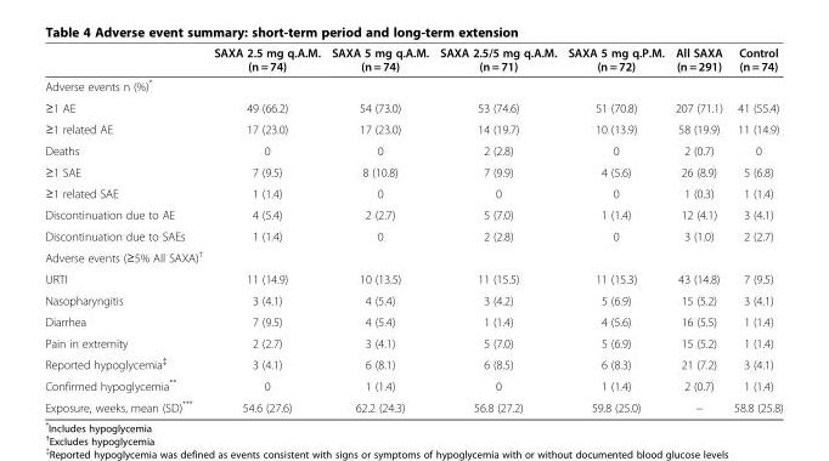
<table><thead><tr><td></td><td>SAXA 2.5 mg q.A.M. (n = 74)</td><td>SAXA 5 mg q.A.M. (n = 74)</td><td>SAXA 2.5/5 mg q.A.M. (n = 71)</td><td>SAXA 5 mg q.P.M. (n = 72)</td><td>All SAXA (n = 291)</td><td>Control (n = 74)</td></tr></thead><tbody><tr><td colspan="7">Adverse events n (%)*</td></tr><tr><td>≥1 AE</td><td>49 (66.2)</td><td>54 (73.0)</td><td>53 (74.6)</td><td>51 (70.8)</td><td>207 (71.1)</td><td>41 (55.4)</td></tr><tr><td>≥1 related AE</td><td>17 (23.0)</td><td>17 (23.0)</td><td>14 (19.7)</td><td>10 (13.9)</td><td>58 (19.9)</td><td>11 (14.9)</td></tr><tr><td>Deaths</td><td>0</td><td>0</td><td>2 (2.8)</td><td>0</td><td>2 (0.7)</td><td>0</td></tr><tr><td>≥1 SAE</td><td>7 (9.5)</td><td>8 (10.8)</td><td>7 (9.9)</td><td>4 (5.6)</td><td>26 (8.9)</td><td>5 (6.8)</td></tr><tr><td>≥1 related SAE</td><td>1 (1.4)</td><td>0</td><td>0</td><td>0</td><td>1 (0.3)</td><td>1 (1.4)</td></tr><tr><td>Discontinuation due to AE</td><td>4 (5.4)</td><td>2 (2.7)</td><td>5 (7.0)</td><td>1 (1.4)</td><td>12 (4.1)</td><td>3 (4.1)</td></tr><tr><td>Discontinuation due to SAEs</td><td>1 (1.4)</td><td>0</td><td>2 (2.8)</td><td>0</td><td>3 (1.0)</td><td>2 (2.7)</td></tr><tr><td colspan="7">Adverse events (≥5% All SAXA)<sup>†</sup></td></tr><tr><td>URTI</td><td>11 (14.9)</td><td>10 (13.5)</td><td>11 (15.5)</td><td>11 (15.3)</td><td>43 (14.8)</td><td>7 (9.5)</td></tr><tr><td>Nasopharyngitis</td><td>3 (4.1)</td><td>4 (5.4)</td><td>3 (4.2)</td><td>5 (6.9)</td><td>15 (5.2)</td><td>3 (4.1)</td></tr><tr><td>Diarrhea</td><td>7 (9.5)</td><td>4 (5.4)</td><td>1 (1.4)</td><td>4 (5.6)</td><td>16 (5.5)</td><td>1 (1.4)</td></tr><tr><td>Pain in extremity</td><td>2 (2.7)</td><td>3 (4.1)</td><td>5 (7.0)</td><td>5 (6.9)</td><td>15 (5.2)</td><td>1 (1.4)</td></tr><tr><td>Reported hypoglycemia<sup>‡</sup></td><td>3 (4.1)</td><td>6 (8.1)</td><td>6 (8.5)</td><td>6 (8.3)</td><td>21 (7.2)</td><td>3 (4.1)</td></tr><tr><td>Confirmed hypoglycemia**</td><td>0</td><td>1 (1.4)</td><td>0</td><td>1 (1.4)</td><td>2 (0.7)</td><td>1 (1.4)</td></tr><tr><td>Exposure, weeks, mean (SD)***</td><td>54.6 (27.6)</td><td>62.2 (24.3)</td><td>56.8 (27.2)</td><td>59.8 (25.0)</td><td>−</td><td>58.8 (25.8)</td></tr></tbody></table>